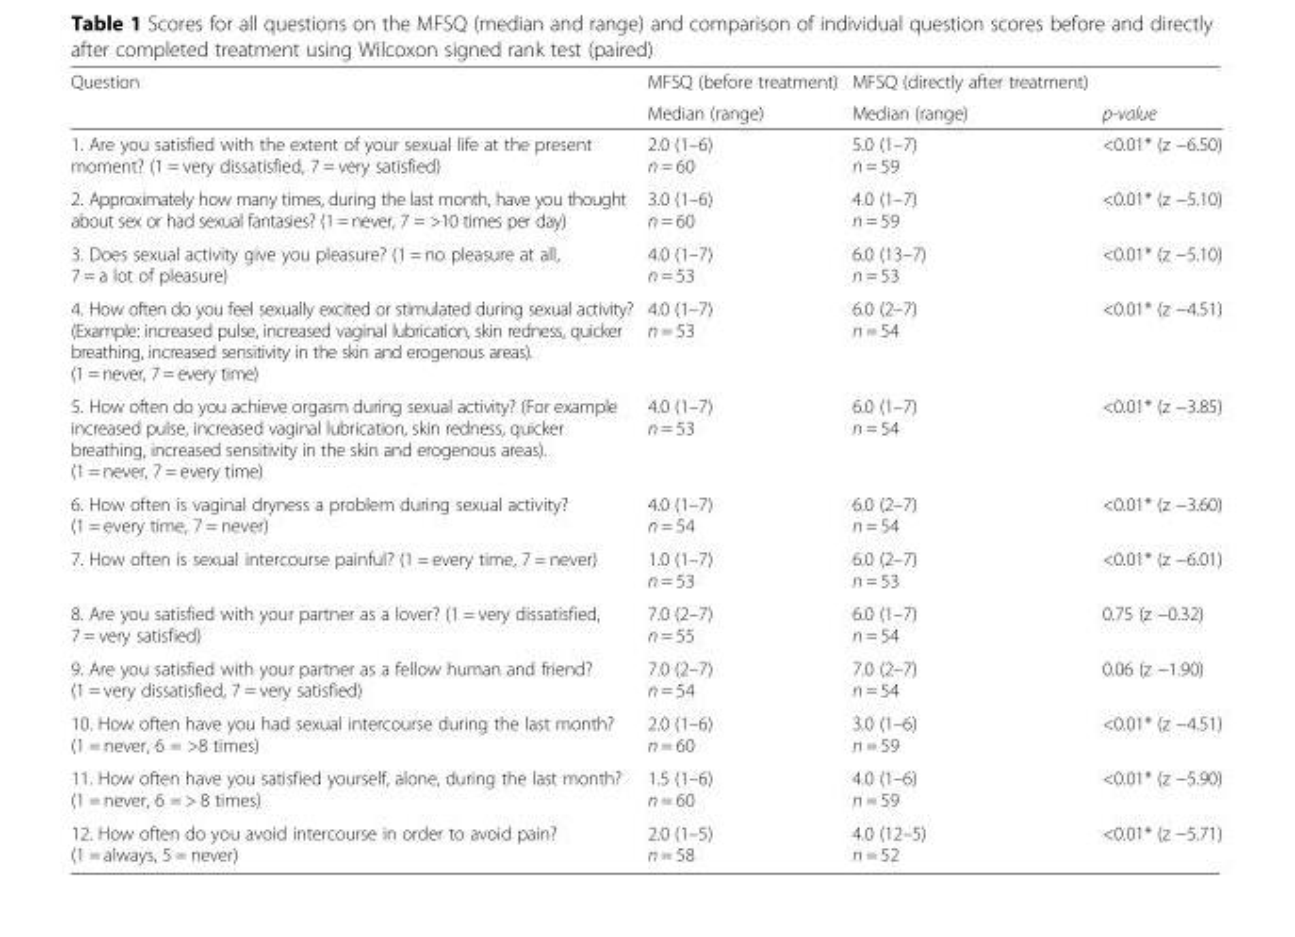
<table><thead><tr><td rowspan="2">Question</td><td rowspan="2">MFSQ (before treatment) Median (range)</td><td rowspan="2">MFSQ (directly after treatment) Median (range)</td><td rowspan="2">p-value</td></tr><tr></tr></thead><tbody><tr><td>1. Are you satisfied with the extent of your sexual life at the present moment? (1 = very dissatisfied, 7 = very satisfied)</td><td>2.0 (1–6) n = 60</td><td>5.0 (1–7) n = 59</td><td>&lt;0.01* (z −6.50)</td></tr><tr><td>2. Approximately how many times, during the last month, have you thought about sex or had sexual fantasies? (1 = never, 7 = &gt;10 times per day)</td><td>3.0 (1–6) n = 60</td><td>4.0 (1–7) n = 59</td><td>&lt;0.01* (z −5.10)</td></tr><tr><td>3. Does sexual activity give you pleasure? (1 = no pleasure at all, 7 = a lot of pleasure)</td><td>4.0 (1–7) n = 53</td><td>6.0 (13–7) n = 53</td><td>&lt;0.01* (z −5.10)</td></tr><tr><td>4. How often do you feel sexually excited or stimulated during sexual activity? (Example: increased pulse, increased vaginal lubrication, skin redness, quicker breathing, increased sensitivity in the skin and erogenous areas). (1 = never, 7 = every time)</td><td>4.0 (1–7) n = 53</td><td>6.0 (2–7) n = 54</td><td>&lt;0.01* (z −4.51)</td></tr><tr><td>5. How often do you achieve orgasm during sexual activity? (For example increased pulse, increased vaginal lubrication, skin redness, quicker breathing, increased sensitivity in the skin and erogenous areas). (1 = never, 7 = every time)</td><td>4.0 (1–7) n = 53</td><td>6.0 (1–7) n = 54</td><td>&lt;0.01* (z −3.85)</td></tr><tr><td>6. How often is vaginal dryness a problem during sexual activity? (1 = every time, 7 = never)</td><td>4.0 (1–7) n = 54</td><td>6.0 (2–7) n = 54</td><td>&lt;0.01* (z −3.60)</td></tr><tr><td>7. How often is sexual intercourse painful? (1 = every time, 7 = never)</td><td>1.0 (1–7) n = 53</td><td>6.0 (2–7) n = 53</td><td>&lt;0.01* (z −6.01)</td></tr><tr><td>8. Are you satisfied with your partner as a lover? (1 = very dissatisfied, 7 = very satisfied)</td><td>7.0 (2–7) n = 55</td><td>6.0 (1–7) n = 54</td><td>0.75 (z −0.32)</td></tr><tr><td>9. Are you satisfied with your partner as a fellow human and friend? (1 = very dissatisfied, 7 = very satisfied)</td><td>7.0 (2–7) n = 54</td><td>7.0 (2–7) n = 54</td><td>0.06 (z −1.90)</td></tr><tr><td>10. How often have you had sexual intercourse during the last month? (1 = never, 6 = &gt;8 times)</td><td>2.0 (1–6) n = 60</td><td>3.0 (1–6) n = 59</td><td>&lt;0.01* (z −4.51)</td></tr><tr><td>11. How often have you satisfied yourself, alone, during the last month? (1 = never, 6 = &gt; 8 times)</td><td>1.5 (1–6) n = 60</td><td>4.0 (1–6) n = 59</td><td>&lt;0.01* (z −5.90)</td></tr><tr><td>12. How often do you avoid intercourse in order to avoid pain? (1 = always, 5 = never)</td><td>2.0 (1–5) n = 58</td><td>4.0 (12–5) n = 52</td><td>&lt;0.01* (z −5.71)</td></tr></tbody></table>